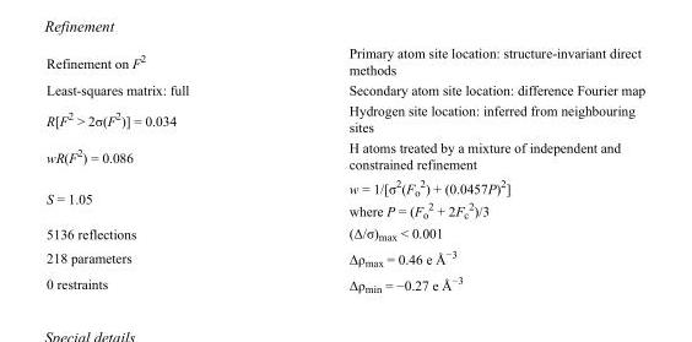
<table><tbody><tr><td>Refinement on F<sup>2</sup></td><td>Primary atom site location: structure-invariant direct methods</td></tr><tr><td>Least-squares matrix: full</td><td>Secondary atom site location: difference Fourier map</td></tr><tr><td>R[F<sup>2</sup> &gt; 2σ(F<sup>2</sup>)] = 0.034</td><td>Hydrogen site location: inferred from neighbouring sites</td></tr><tr><td>wR(F<sup>2</sup>) = 0.086</td><td>H atoms treated by a mixture of independent and constrained refinement</td></tr><tr><td>S = 1.05</td><td>w = 1/[σ<sup>2</sup>(F<sub>o</sub> <sup>2</sup>) + (0.0457P)<sup>2</sup>] where P = (F<sub>o</sub> <sup>2</sup> + 2F<sub>c</sub> <sup>2</sup>)/3</td></tr><tr><td>5136 reflections</td><td>(Δ/σ)<sub>max</sub> &lt; 0.001</td></tr><tr><td>218 parameters</td><td>Δρ<sub>max</sub> = 0.46 e Å<sup>−3</sup></td></tr><tr><td>0 restraints</td><td>Δρ<sub>min</sub> = −0.27 e Å<sup>−3</sup></td></tr></tbody></table>